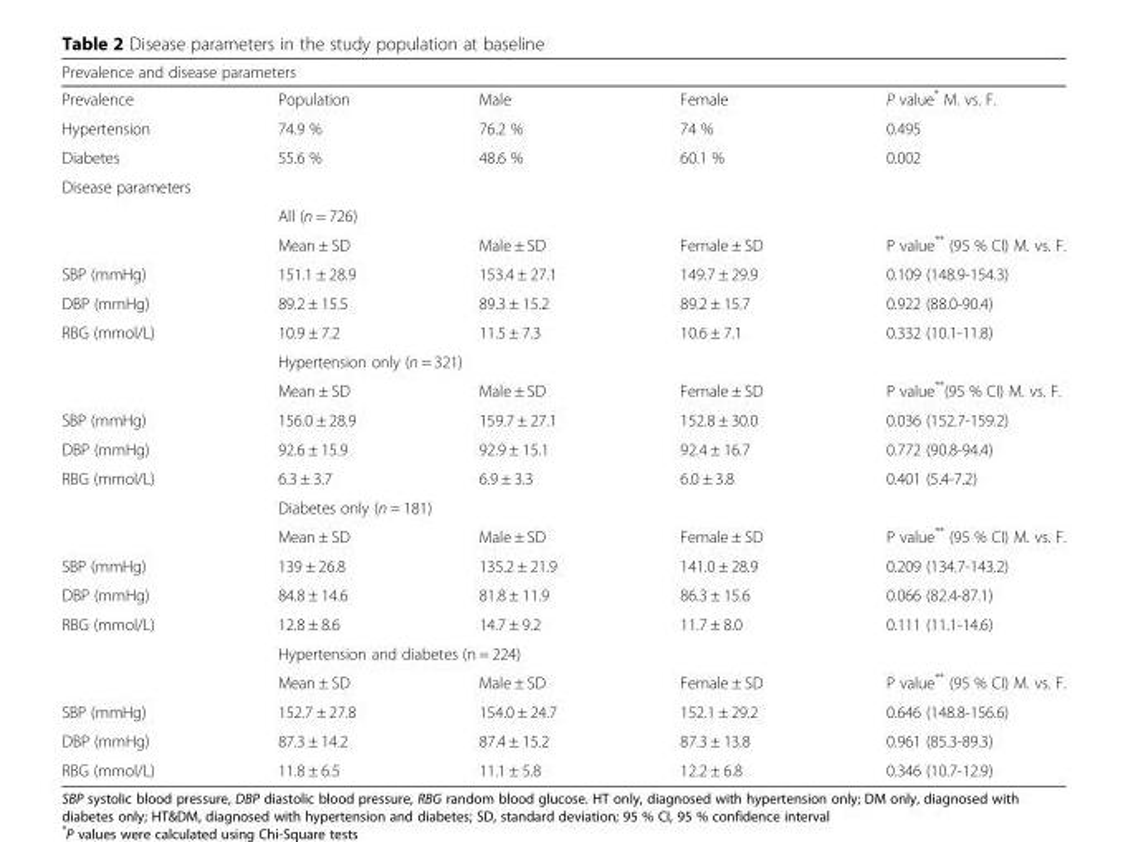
<table><thead><tr><td colspan="5">Prevalence and disease parameters</td></tr><tr><td>Prevalence</td><td>Population</td><td>Male</td><td>Female</td><td>P value* M. vs. F.</td></tr></thead><tbody><tr><td>Hypertension</td><td>74.9 %</td><td>76.2 %</td><td>74 %</td><td>0.495</td></tr><tr><td>Diabetes</td><td>55.6 %</td><td>48.6 %</td><td>60.1 %</td><td>0.002</td></tr><tr><td colspan="5">Disease parameters</td></tr><tr><td></td><td colspan="4">All (n = 726)</td></tr><tr><td></td><td>Mean ± SD</td><td>Male ± SD</td><td>Female ± SD</td><td>P value** (95 % CI) M. vs. F.</td></tr><tr><td>SBP (mmHg)</td><td>151.1 ± 28.9</td><td>153.4 ± 27.1</td><td>149.7 ± 29.9</td><td>0.109 (148.9-154.3)</td></tr><tr><td>DBP (mmHg)</td><td>89.2 ± 15.5</td><td>89.3 ± 15.2</td><td>89.2 ± 15.7</td><td>0.922 (88.0-90.4)</td></tr><tr><td rowspan="3">RBG (mmol/L)</td><td>10.9 ± 7.2</td><td>11.5 ± 7.3</td><td>10.6 ± 7.1</td><td>0.332 (10.1-11.8)</td></tr><tr><td colspan="4">Hypertension only (n = 321)</td></tr><tr><td>Mean ± SD</td><td>Male ± SD</td><td>Female ± SD</td><td>P value**(95 % CI) M. vs. F.</td></tr><tr><td>SBP (mmHg)</td><td>156.0 ± 28.9</td><td>159.7 ± 27.1</td><td>152.8 ± 30.0</td><td>0.036 (152.7-159.2)</td></tr><tr><td>DBP (mmHg)</td><td>92.6 ± 15.9</td><td>92.9 ± 15.1</td><td>92.4 ± 16.7</td><td>0.772 (90.8-94.4)</td></tr><tr><td rowspan="3">RBG (mmol/L)</td><td>6.3 ± 3.7</td><td>6.9 ± 3.3</td><td>6.0 ± 3.8</td><td>0.401 (5.4-7.2)</td></tr><tr><td colspan="4">Diabetes only (n = 181)</td></tr><tr><td>Mean ± SD</td><td>Male ± SD</td><td>Female ± SD</td><td>P value** (95 % CI) M. vs. F.</td></tr><tr><td>SBP (mmHg)</td><td>139 ± 26.8</td><td>135.2 ± 21.9</td><td>141.0 ± 28.9</td><td>0.209 (134.7-143.2)</td></tr><tr><td>DBP (mmHg)</td><td>84.8 ± 14.6</td><td>81.8 ± 11.9</td><td>86.3 ± 15.6</td><td>0.066 (82.4-87.1)</td></tr><tr><td rowspan="3">RBG (mmol/L)</td><td>12.8 ± 8.6</td><td>14.7 ± 9.2</td><td>11.7 ± 8.0</td><td>0.111 (11.1-14.6)</td></tr><tr><td colspan="4">Hypertension and diabetes (n = 224)</td></tr><tr><td>Mean ± SD</td><td>Male ± SD</td><td>Female ± SD</td><td>P value** (95 % CI) M. vs. F.</td></tr><tr><td>SBP (mmHg)</td><td>152.7 ± 27.8</td><td>154.0 ± 24.7</td><td>152.1 ± 29.2</td><td>0.646 (148.8-156.6)</td></tr><tr><td>DBP (mmHg)</td><td>87.3 ± 14.2</td><td>87.4 ± 15.2</td><td>87.3 ± 13.8</td><td>0.961 (85.3-89.3)</td></tr><tr><td>RBG (mmol/L)</td><td>11.8 ± 6.5</td><td>11.1 ± 5.8</td><td>12.2 ± 6.8</td><td>0.346 (10.7-12.9)</td></tr></tbody></table>